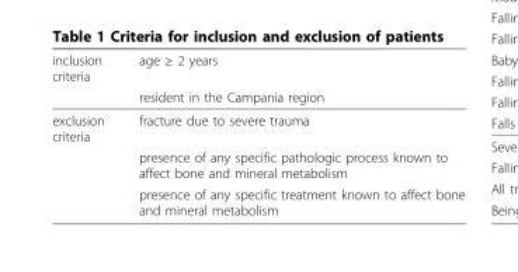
<table><thead><tr><td rowspan="2">inclusion criteria</td><td rowspan="2">age ≥ 2 years resident in the Campania region</td></tr><tr></tr></thead><tbody><tr><td rowspan="3">exclusion criteria</td><td>fracture due to severe trauma</td></tr><tr><td>presence of any specific pathologic process known to affect bone and mineral metabolism</td></tr><tr><td>presence of any specific treatment known to affect bone and mineral metabolism</td></tr></tbody></table>